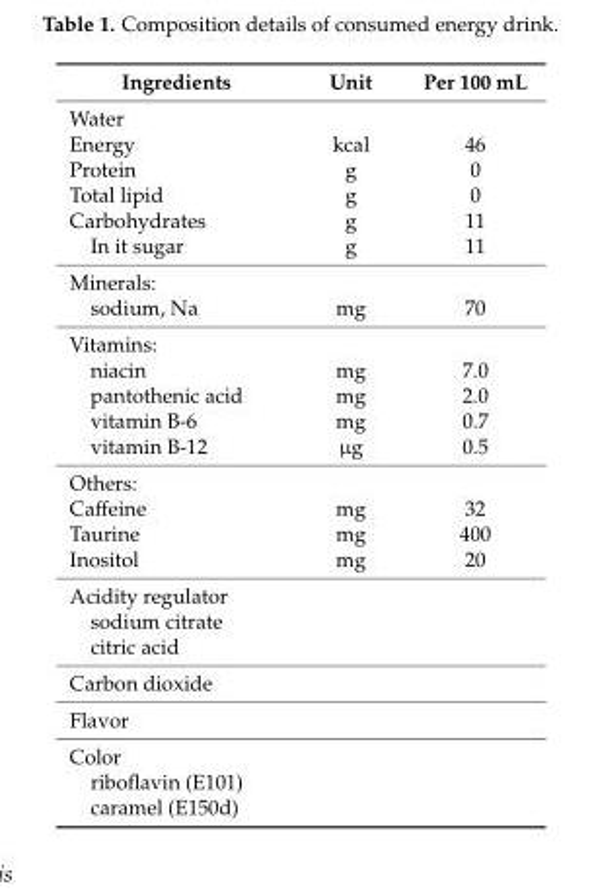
<table><thead><tr><td>Ingredients</td><td>Unit</td><td>Per 100 mL</td></tr></thead><tbody><tr><td colspan="3">Water</td></tr><tr><td>Energy</td><td>kcal</td><td>46</td></tr><tr><td>Protein</td><td>g</td><td>0</td></tr><tr><td>Total lipid</td><td>g</td><td>0</td></tr><tr><td>Carbohydrates</td><td>g</td><td>11</td></tr><tr><td>In it sugar</td><td>g</td><td>11</td></tr><tr><td colspan="3">Minerals:</td></tr><tr><td>sodium, Na</td><td>mg</td><td>70</td></tr><tr><td colspan="3">Vitamins:</td></tr><tr><td>niacin</td><td>mg</td><td>7.0</td></tr><tr><td>pantothenic acid</td><td>mg</td><td>2.0</td></tr><tr><td>vitamin B-6</td><td>mg</td><td>0.7</td></tr><tr><td>vitamin B-12</td><td>µg</td><td>0.5</td></tr><tr><td colspan="3">Others:</td></tr><tr><td>Caffeine</td><td>mg</td><td>32</td></tr><tr><td>Taurine</td><td>mg</td><td>400</td></tr><tr><td>Inositol</td><td>mg</td><td>20</td></tr><tr><td colspan="3">Acidity regulator</td></tr><tr><td colspan="3">sodium citrate</td></tr><tr><td colspan="3">citric acid</td></tr><tr><td colspan="3">Carbon dioxide</td></tr><tr><td colspan="3">Flavor</td></tr><tr><td colspan="3">Color</td></tr><tr><td colspan="3">riboflavin (E101)</td></tr><tr><td>caramel (E150d)</td><td></td><td></td></tr></tbody></table>